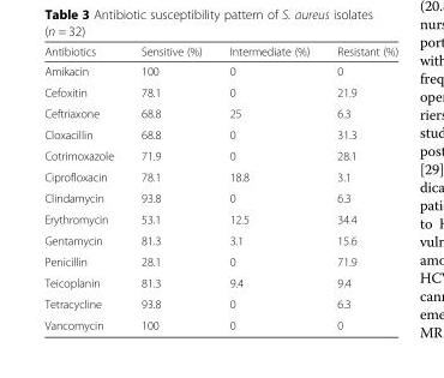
<table><thead><tr><td>Antibiotics</td><td>Sensitive (%)</td><td>Intermediate (%)</td><td>Resistant (%)</td></tr></thead><tbody><tr><td>Amikacin</td><td>100</td><td>0</td><td>0</td></tr><tr><td>Cefoxitin</td><td>78.1</td><td>0</td><td>21.9</td></tr><tr><td>Ceftriaxone</td><td>68.8</td><td>25</td><td>6.3</td></tr><tr><td>Cloxacillin</td><td>68.8</td><td>0</td><td>31.3</td></tr><tr><td>Cotrimoxazole</td><td>71.9</td><td>0</td><td>28.1</td></tr><tr><td>Ciprofloxacin</td><td>78.1</td><td>18.8</td><td>3.1</td></tr><tr><td>Clindamycin</td><td>93.8</td><td>0</td><td>6.3</td></tr><tr><td>Erythromycin</td><td>53.1</td><td>12.5</td><td>34.4</td></tr><tr><td>Gentamycin</td><td>81.3</td><td>3.1</td><td>15.6</td></tr><tr><td>Penicillin</td><td>28.1</td><td>0</td><td>71.9</td></tr><tr><td>Teicoplanin</td><td>81.3</td><td>9.4</td><td>9.4</td></tr><tr><td>Tetracycline</td><td>93.8</td><td>0</td><td>6.3</td></tr><tr><td>Vancomycin</td><td>100</td><td>0</td><td>0</td></tr></tbody></table>